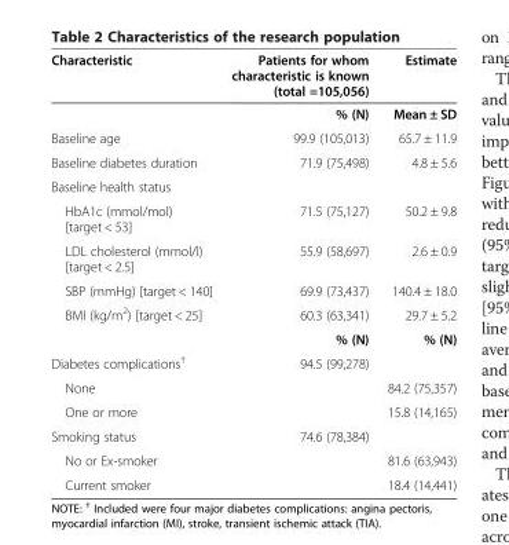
<table><thead><tr><td>Characteristic</td><td>Patients for whom characteristic is known (total =105,056)</td><td>Estimate</td></tr></thead><tbody><tr><td></td><td>% (N)</td><td>Mean ± SD</td></tr><tr><td>Baseline age</td><td>99.9 (105,013)</td><td>65.7 ± 11.9</td></tr><tr><td>Baseline diabetes duration</td><td>71.9 (75,498)</td><td>4.8 ± 5.6</td></tr><tr><td colspan="3">Baseline health status</td></tr><tr><td>HbA1c (mmol/mol) [target &lt; 53]</td><td>71.5 (75,127)</td><td>50.2 ± 9.8</td></tr><tr><td>LDL cholesterol (mmol/l) [target &lt; 2.5]</td><td>55.9 (58,697)</td><td>2.6 ± 0.9</td></tr><tr><td>SBP (mmHg) [target &lt; 140]</td><td>69.9 (73,437)</td><td>140.4 ± 18.0</td></tr><tr><td rowspan="2">BMI (kg/m<sup>2</sup>) [target &lt; 25]</td><td>60.3 (63,341)</td><td>29.7 ± 5.2</td></tr><tr><td>% (N)</td><td>% (N)</td></tr><tr><td>Diabetes complications<sup>†</sup></td><td>94.5 (99,278)</td><td></td></tr><tr><td>None</td><td></td><td>84.2 (75,357)</td></tr><tr><td>One or more</td><td></td><td>15.8 (14,165)</td></tr><tr><td>Smoking status</td><td>74.6 (78,384)</td><td></td></tr><tr><td>No or Ex-smoker</td><td></td><td>81.6 (63,943)</td></tr><tr><td>Current smoker</td><td></td><td>18.4 (14,441)</td></tr></tbody></table>